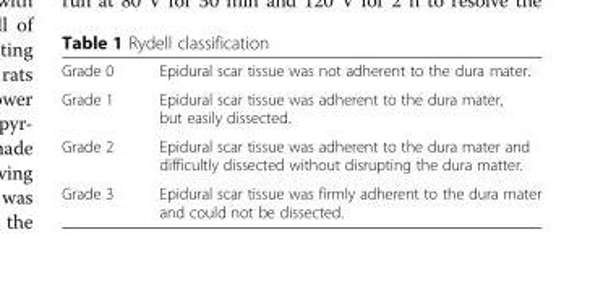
<table><tbody><tr><td>Grade 0</td><td>Epidural scar tissue was not adherent to the dura mater.</td></tr><tr><td>Grade 1</td><td>Epidural scar tissue was adherent to the dura mater, but easily dissected.</td></tr><tr><td>Grade 2</td><td>Epidural scar tissue was adherent to the dura mater and difficultly dissected without disrupting the dura matter.</td></tr><tr><td>Grade 3</td><td>Epidural scar tissue was firmly adherent to the dura mater and could not be dissected.</td></tr></tbody></table>